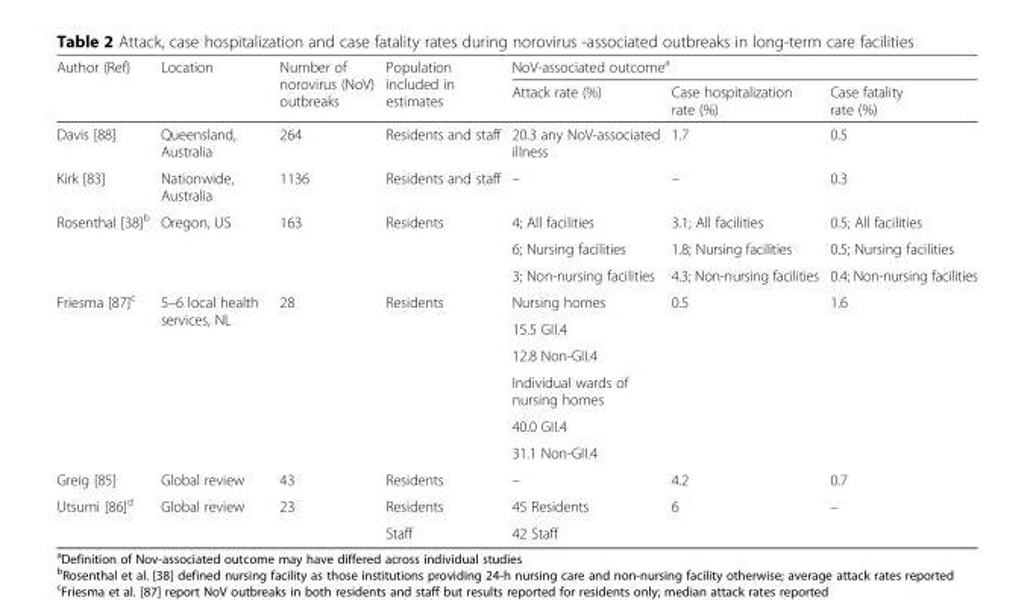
<table><thead><tr><td rowspan="2">Author (Ref)</td><td rowspan="2">Location</td><td rowspan="2">Number of norovirus (NoV) outbreaks</td><td rowspan="2">Population included in estimates</td><td colspan="3">NoV-associated outcome<sup>a</sup></td></tr><tr><td>Attack rate (%)</td><td>Case hospitalization rate (%)</td><td>Case fatality rate (%)</td></tr></thead><tbody><tr><td>Davis [88]</td><td>Queensland, Australia</td><td>264</td><td>Residents and staff</td><td>20.3 any NoV-associated illness</td><td>1.7</td><td>0.5</td></tr><tr><td>Kirk [83]</td><td>Nationwide, Australia</td><td>1136</td><td>Residents and staff</td><td>–</td><td>–</td><td>0.3</td></tr><tr><td rowspan="3">Rosenthal [38]<sup>b</sup></td><td rowspan="3">Oregon, US</td><td rowspan="3">163</td><td rowspan="3">Residents</td><td>4; All facilities</td><td>3.1; All facilities</td><td>0.5; All facilities</td></tr><tr><td>6; Nursing facilities</td><td>1.8; Nursing facilities</td><td>0.5; Nursing facilities</td></tr><tr><td>3; Non-nursing facilities</td><td>4.3; Non-nursing facilities</td><td>0.4; Non-nursing facilities</td></tr><tr><td rowspan="6">Friesma [87]<sup>c</sup></td><td rowspan="6">5–6 local health services, NL</td><td rowspan="6">28</td><td rowspan="6">Residents</td><td>Nursing homes</td><td rowspan="6">0.5</td><td rowspan="6">1.6</td></tr><tr><td>15.5 GII.4</td></tr><tr><td>12.8 Non-GII.4</td></tr><tr><td>Individual wards of nursing homes</td></tr><tr><td>40.0 GII.4</td></tr><tr><td>31.1 Non-GII.4</td></tr><tr><td>Greig [85]</td><td>Global review</td><td>43</td><td>Residents</td><td>–</td><td>4.2</td><td>0.7</td></tr><tr><td rowspan="2">Utsumi [86]<sup>d</sup></td><td rowspan="2">Global review</td><td rowspan="2">23</td><td>Residents</td><td>45 Residents</td><td rowspan="2">6</td><td rowspan="2">–</td></tr><tr><td>Staff</td><td>42 Staff</td></tr></tbody></table>